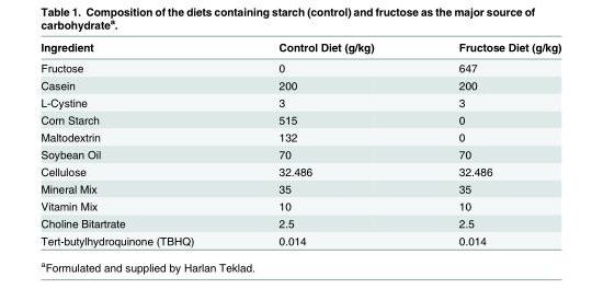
<table><thead><tr><td>Ingredient</td><td>Control Diet (g/kg)</td><td>Fructose Diet (g/kg)</td></tr></thead><tbody><tr><td>Fructose</td><td>0</td><td>647</td></tr><tr><td>Casein</td><td>200</td><td>200</td></tr><tr><td>L-Cystine</td><td>3</td><td>3</td></tr><tr><td>Corn Starch</td><td>515</td><td>0</td></tr><tr><td>Maltodextrin</td><td>132</td><td>0</td></tr><tr><td>Soybean Oil</td><td>70</td><td>70</td></tr><tr><td>Cellulose</td><td>32.486</td><td>32.486</td></tr><tr><td>Mineral Mix</td><td>35</td><td>35</td></tr><tr><td>Vitamin Mix</td><td>10</td><td>10</td></tr><tr><td>Choline Bitartrate</td><td>2.5</td><td>2.5</td></tr><tr><td>Tert-butylhydroquinone (TBHQ)</td><td>0.014</td><td>0.014</td></tr></tbody></table>